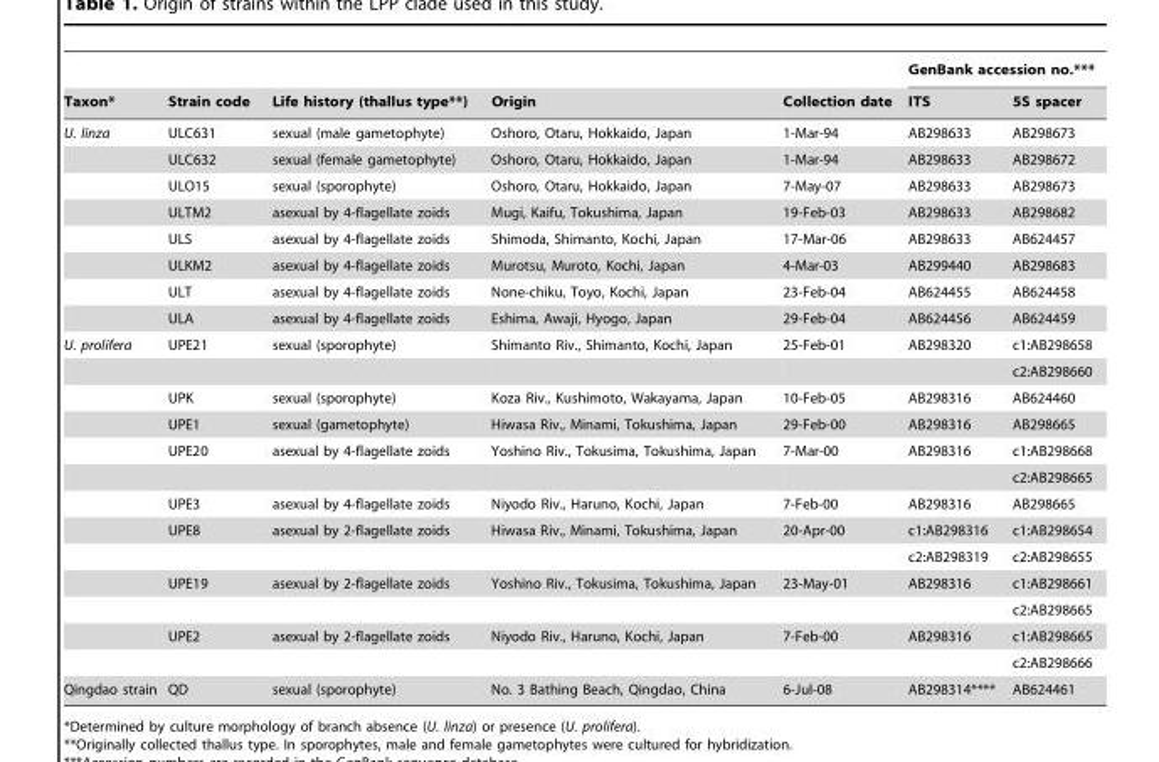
<table><thead><tr><td rowspan="2">Taxon*</td><td rowspan="2">Strain code</td><td rowspan="2">Life history (thallus type**)</td><td rowspan="2">Origin</td><td rowspan="2">Collection date</td><td colspan="2">GenBank accession no.***</td></tr><tr><td>ITS</td><td>5S spacer</td></tr></thead><tbody><tr><td rowspan="8">U. linza</td><td>ULC631</td><td>sexual (male gametophyte)</td><td>Oshoro, Otaru, Hokkaido, Japan</td><td>1-Mar-94</td><td>AB298633</td><td>AB298673</td></tr><tr><td>ULC632</td><td>sexual (female gametophyte)</td><td>Oshoro, Otaru, Hokkaido, Japan</td><td>1-Mar-94</td><td>AB298633</td><td>AB298672</td></tr><tr><td>ULO15</td><td>sexual (sporophyte)</td><td>Oshoro, Otaru, Hokkaido, Japan</td><td>7-May-07</td><td>AB298633</td><td>AB298673</td></tr><tr><td>ULTM2</td><td>asexual by 4-flagellate zoids</td><td>Mugi, Kaifu, Tokushima, Japan</td><td>19-Feb-03</td><td>AB298633</td><td>AB298682</td></tr><tr><td>ULS</td><td>asexual by 4-flagellate zoids</td><td>Shimoda, Shimanto, Kochi, Japan</td><td>17-Mar-06</td><td>AB298633</td><td>AB624457</td></tr><tr><td>ULKM2</td><td>asexual by 4-flagellate zoids</td><td>Murotsu, Muroto, Kochi, Japan</td><td>4-Mar-03</td><td>AB299440</td><td>AB298683</td></tr><tr><td>ULT</td><td>asexual by 4-flagellate zoids</td><td>None-chiku, Toyo, Kochi, Japan</td><td>23-Feb-04</td><td>AB624455</td><td>AB624458</td></tr><tr><td>ULA</td><td>asexual by 4-flagellate zoids</td><td>Eshima, Awaji, Hyogo, Japan</td><td>29-Feb-04</td><td>AB624456</td><td>AB624459</td></tr><tr><td rowspan="13">U. prolifera</td><td>UPE21</td><td>sexual (sporophyte)</td><td>Shimanto Riv., Shimanto, Kochi, Japan</td><td>25-Feb-01</td><td>AB298320</td><td>c1:AB298658</td></tr><tr><td></td><td></td><td></td><td></td><td></td><td>c2:AB298660</td></tr><tr><td>UPK</td><td>sexual (sporophyte)</td><td>Koza Riv., Kushimoto, Wakayama, Japan</td><td>10-Feb-05</td><td>AB298316</td><td>AB624460</td></tr><tr><td>UPE1</td><td>sexual (gametophyte)</td><td>Hiwasa Riv., Minami, Tokushima, Japan</td><td>29-Feb-00</td><td>AB298316</td><td>AB298665</td></tr><tr><td>UPE20</td><td>asexual by 4-flagellate zoids</td><td>Yoshino Riv., Tokusima, Tokushima, Japan</td><td>7-Mar-00</td><td>AB298316</td><td>c1:AB298668</td></tr><tr><td></td><td></td><td></td><td></td><td></td><td>c2:AB298665</td></tr><tr><td>UPE3</td><td>asexual by 4-flagellate zoids</td><td>Niyodo Riv., Haruno, Kochi, Japan</td><td>7-Feb-00</td><td>AB298316</td><td>AB298665</td></tr><tr><td>UPE8</td><td>asexual by 2-flagellate zoids</td><td>Hiwasa Riv., Minami, Tokushima, Japan</td><td>20-Apr-00</td><td>c1:AB298316</td><td>c1:AB298654</td></tr><tr><td></td><td></td><td></td><td></td><td>c2:AB298319</td><td>c2:AB298655</td></tr><tr><td>UPE19</td><td>asexual by 2-flagellate zoids</td><td>Yoshino Riv., Tokusima, Tokushima, Japan</td><td>23-May-01</td><td>AB298316</td><td>c1:AB298661</td></tr><tr><td></td><td></td><td></td><td></td><td></td><td>c2:AB298665</td></tr><tr><td>UPE2</td><td>asexual by 2-flagellate zoids</td><td>Niyodo Riv., Haruno, Kochi, Japan</td><td>7-Feb-00</td><td>AB298316</td><td>c1:AB298665</td></tr><tr><td></td><td></td><td></td><td></td><td></td><td>c2:AB298666</td></tr><tr><td>Qingdao strain</td><td>QD</td><td>sexual (sporophyte)</td><td>No. 3 Bathing Beach, Qingdao, China</td><td>6-Jul-08</td><td>AB298314****</td><td>AB624461</td></tr></tbody></table>